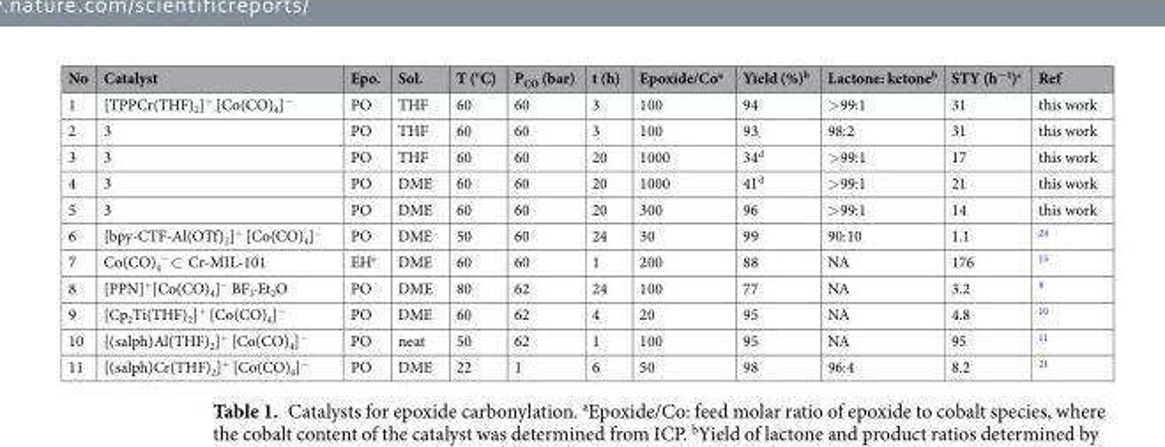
<table><thead><tr><td>No</td><td>Catalyst</td><td>Epo.</td><td>Sol.</td><td>T (°C)</td><td>P<sub>CO</sub> (bar)</td><td>t (h)</td><td>Epoxide/Co<sup>a</sup></td><td>Yield (%)<sup>b</sup></td><td>Lactone: ketone<sup>b</sup></td><td>STY (h<sup>−1</sup>)<sup>c</sup></td><td>Ref</td></tr></thead><tbody><tr><td>1</td><td>[TPPCr(THF)<sub>2</sub>]<sup>+</sup> [Co(CO)<sub>4</sub>]<sup>−</sup></td><td>PO</td><td>THF</td><td>60</td><td>60</td><td>3</td><td>100</td><td>94</td><td>&gt;99:1</td><td>31</td><td>this work</td></tr><tr><td>2</td><td>3</td><td>PO</td><td>THF</td><td>60</td><td>60</td><td>3</td><td>100</td><td>93</td><td>98:2</td><td>31</td><td>this work</td></tr><tr><td>3</td><td>3</td><td>PO</td><td>THF</td><td>60</td><td>60</td><td>20</td><td>1000</td><td>34<sup>d</sup></td><td>&gt;99:1</td><td>17</td><td>this work</td></tr><tr><td>4</td><td>3</td><td>PO</td><td>DME</td><td>60</td><td>60</td><td>20</td><td>1000</td><td>41<sup>d</sup></td><td>&gt;99:1</td><td>21</td><td>this work</td></tr><tr><td>5</td><td>3</td><td>PO</td><td>DME</td><td>60</td><td>60</td><td>20</td><td>300</td><td>96</td><td>&gt;99:1</td><td>14</td><td>this work</td></tr><tr><td>6</td><td>[bpy-CTF-Al(OTf)<sub>2</sub>]<sup>+</sup> [Co(CO)<sub>4</sub>]<sup>−</sup></td><td>PO</td><td>DME</td><td>50</td><td>60</td><td>24</td><td>30</td><td>99</td><td>90:10</td><td>1.1</td><td><sup>24</sup></td></tr><tr><td>7</td><td>Co(CO)<sub>4</sub> <sup>−</sup> ⊂ Cr-MIL-101</td><td>EH<sup>e</sup></td><td>DME</td><td>60</td><td>60</td><td>1</td><td>200</td><td>88</td><td>NA</td><td>176</td><td><sup>15</sup></td></tr><tr><td>8</td><td>[PPN]<sup>+</sup>[Co(CO)<sub>4</sub>]<sup>−</sup> BF<sub>3</sub>·Et<sub>2</sub>O</td><td>PO</td><td>DME</td><td>80</td><td>62</td><td>24</td><td>100</td><td>77</td><td>NA</td><td>3.2</td><td><sup>9</sup></td></tr><tr><td>9</td><td>[Cp<sub>2</sub>Ti(THF)<sub>2</sub>]<sup>+</sup> [Co(CO)<sub>4</sub>]<sup>−</sup></td><td>PO</td><td>DME</td><td>60</td><td>62</td><td>4</td><td>20</td><td>95</td><td>NA</td><td>4.8</td><td><sup>10</sup></td></tr><tr><td>10</td><td>[(salph)Al(THF)<sub>2</sub>]<sup>+</sup> [Co(CO)<sub>4</sub>]<sup>−</sup></td><td>PO</td><td>neat</td><td>50</td><td>62</td><td>1</td><td>100</td><td>95</td><td>NA</td><td>95</td><td><sup>11</sup></td></tr><tr><td>11</td><td>[(salph)Cr(THF)<sub>2</sub>]<sup>+</sup> [Co(CO)<sub>4</sub>]<sup>−</sup></td><td>PO</td><td>DME</td><td>22</td><td>1</td><td>6</td><td>50</td><td>98</td><td>96:4</td><td>8.2</td><td><sup>21</sup></td></tr></tbody></table>